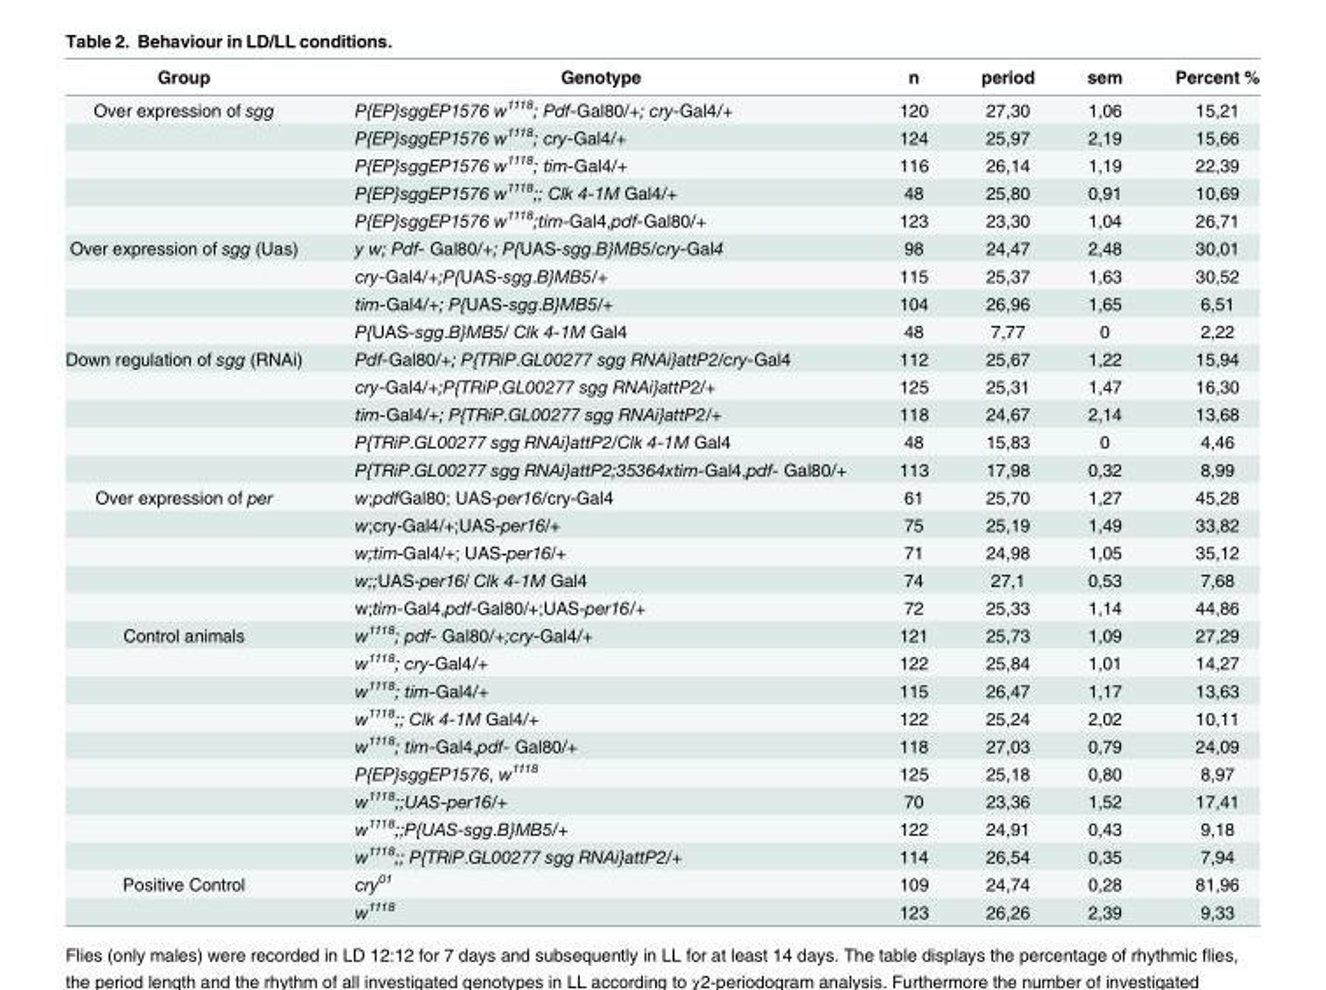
<table><thead><tr><td>Group</td><td>Genotype</td><td>n</td><td>period</td><td>sem</td><td>Percent %</td></tr></thead><tbody><tr><td rowspan="5">Over expression of sgg</td><td>P{EP}sggEP1576 w<sup>1118</sup>; Pdf-Gal80/+; cry-Gal4/+</td><td>120</td><td>27,30</td><td>1,06</td><td>15,21</td></tr><tr><td>P{EP}sggEP1576 w<sup>1118</sup>; cry-Gal4/+</td><td>124</td><td>25,97</td><td>2,19</td><td>15,66</td></tr><tr><td>P{EP}sggEP1576 w<sup>1118</sup>; tim-Gal4/+</td><td>116</td><td>26,14</td><td>1,19</td><td>22,39</td></tr><tr><td>P{EP}sggEP1576 w<sup>1118</sup>;; Clk 4-1M Gal4/+</td><td>48</td><td>25,80</td><td>0,91</td><td>10,69</td></tr><tr><td>P{EP}sggEP1576 w<sup>1118</sup>;tim-Gal4,pdf-Gal80/+</td><td>123</td><td>23,30</td><td>1,04</td><td>26,71</td></tr><tr><td rowspan="4">Over expression of sgg (Uas)</td><td>y w; Pdf- Gal80/+; P{UAS-sgg.B}MB5/cry-Gal4</td><td>98</td><td>24,47</td><td>2,48</td><td>30,01</td></tr><tr><td>cry-Gal4/+;P{UAS-sgg.B}MB5/+</td><td>115</td><td>25,37</td><td>1,63</td><td>30,52</td></tr><tr><td>tim-Gal4/+; P{UAS-sgg.B}MB5/+</td><td>104</td><td>26,96</td><td>1,65</td><td>6,51</td></tr><tr><td>P{UAS-sgg.B}MB5/ Clk 4-1M Gal4</td><td>48</td><td>7,77</td><td>0</td><td>2,22</td></tr><tr><td rowspan="5">Down regulation of sgg (RNAi)</td><td>Pdf-Gal80/+; P{TRiP.GL00277 sgg RNAi}attP2/cry-Gal4</td><td>112</td><td>25,67</td><td>1,22</td><td>15,94</td></tr><tr><td>cry-Gal4/+;P{TRiP.GL00277 sgg RNAi}attP2/+</td><td>125</td><td>25,31</td><td>1,47</td><td>16,30</td></tr><tr><td>tim-Gal4/+; P{TRiP.GL00277 sgg RNAi}attP2/+</td><td>118</td><td>24,67</td><td>2,14</td><td>13,68</td></tr><tr><td>P{TRiP.GL00277 sgg RNAi}attP2/Clk 4-1M Gal4</td><td>48</td><td>15,83</td><td>0</td><td>4,46</td></tr><tr><td>P{TRiP.GL00277 sgg RNAi}attP2;35364xtim-Gal4,pdf- Gal80/+</td><td>113</td><td>17,98</td><td>0,32</td><td>8,99</td></tr><tr><td rowspan="5">Over expression of per</td><td>w;pdfGal80; UAS-per16/cry-Gal4</td><td>61</td><td>25,70</td><td>1,27</td><td>45,28</td></tr><tr><td>w;cry-Gal4/+;UAS-per16/+</td><td>75</td><td>25,19</td><td>1,49</td><td>33,82</td></tr><tr><td>w;tim-Gal4/+; UAS-per16/+</td><td>71</td><td>24,98</td><td>1,05</td><td>35,12</td></tr><tr><td>w;;UAS-per16/ Clk 4-1M Gal4</td><td>74</td><td>27,1</td><td>0,53</td><td>7,68</td></tr><tr><td>w;tim-Gal4,pdf-Gal80/+;UAS-per16/+</td><td>72</td><td>25,33</td><td>1,14</td><td>44,86</td></tr><tr><td rowspan="9">Control animals</td><td>w<sup>1118</sup>; pdf- Gal80/+;cry-Gal4/+</td><td>121</td><td>25,73</td><td>1,09</td><td>27,29</td></tr><tr><td>w<sup>1118</sup>; cry-Gal4/+</td><td>122</td><td>25,84</td><td>1,01</td><td>14,27</td></tr><tr><td>w<sup>1118</sup>; tim-Gal4/+</td><td>115</td><td>26,47</td><td>1,17</td><td>13,63</td></tr><tr><td>w<sup>1118</sup>;; Clk 4-1M Gal4/+</td><td>122</td><td>25,24</td><td>2,02</td><td>10,11</td></tr><tr><td>w<sup>1118</sup>; tim-Gal4,pdf- Gal80/+</td><td>118</td><td>27,03</td><td>0,79</td><td>24,09</td></tr><tr><td>P{EP}sggEP1576, w<sup>1118</sup></td><td>125</td><td>25,18</td><td>0,80</td><td>8,97</td></tr><tr><td>w<sup>1118</sup>;;UAS-per16/+</td><td>70</td><td>23,36</td><td>1,52</td><td>17,41</td></tr><tr><td>w<sup>1118</sup>;;P{UAS-sgg.B}MB5/+</td><td>122</td><td>24,91</td><td>0,43</td><td>9,18</td></tr><tr><td>w<sup>1118</sup>;; P{TRiP.GL00277 sgg RNAi}attP2/+</td><td>114</td><td>26,54</td><td>0,35</td><td>7,94</td></tr><tr><td rowspan="2">Positive Control</td><td>cry<sup>01</sup></td><td>109</td><td>24,74</td><td>0,28</td><td>81,96</td></tr><tr><td>w<sup>1118</sup></td><td>123</td><td>26,26</td><td>2,39</td><td>9,33</td></tr></tbody></table>